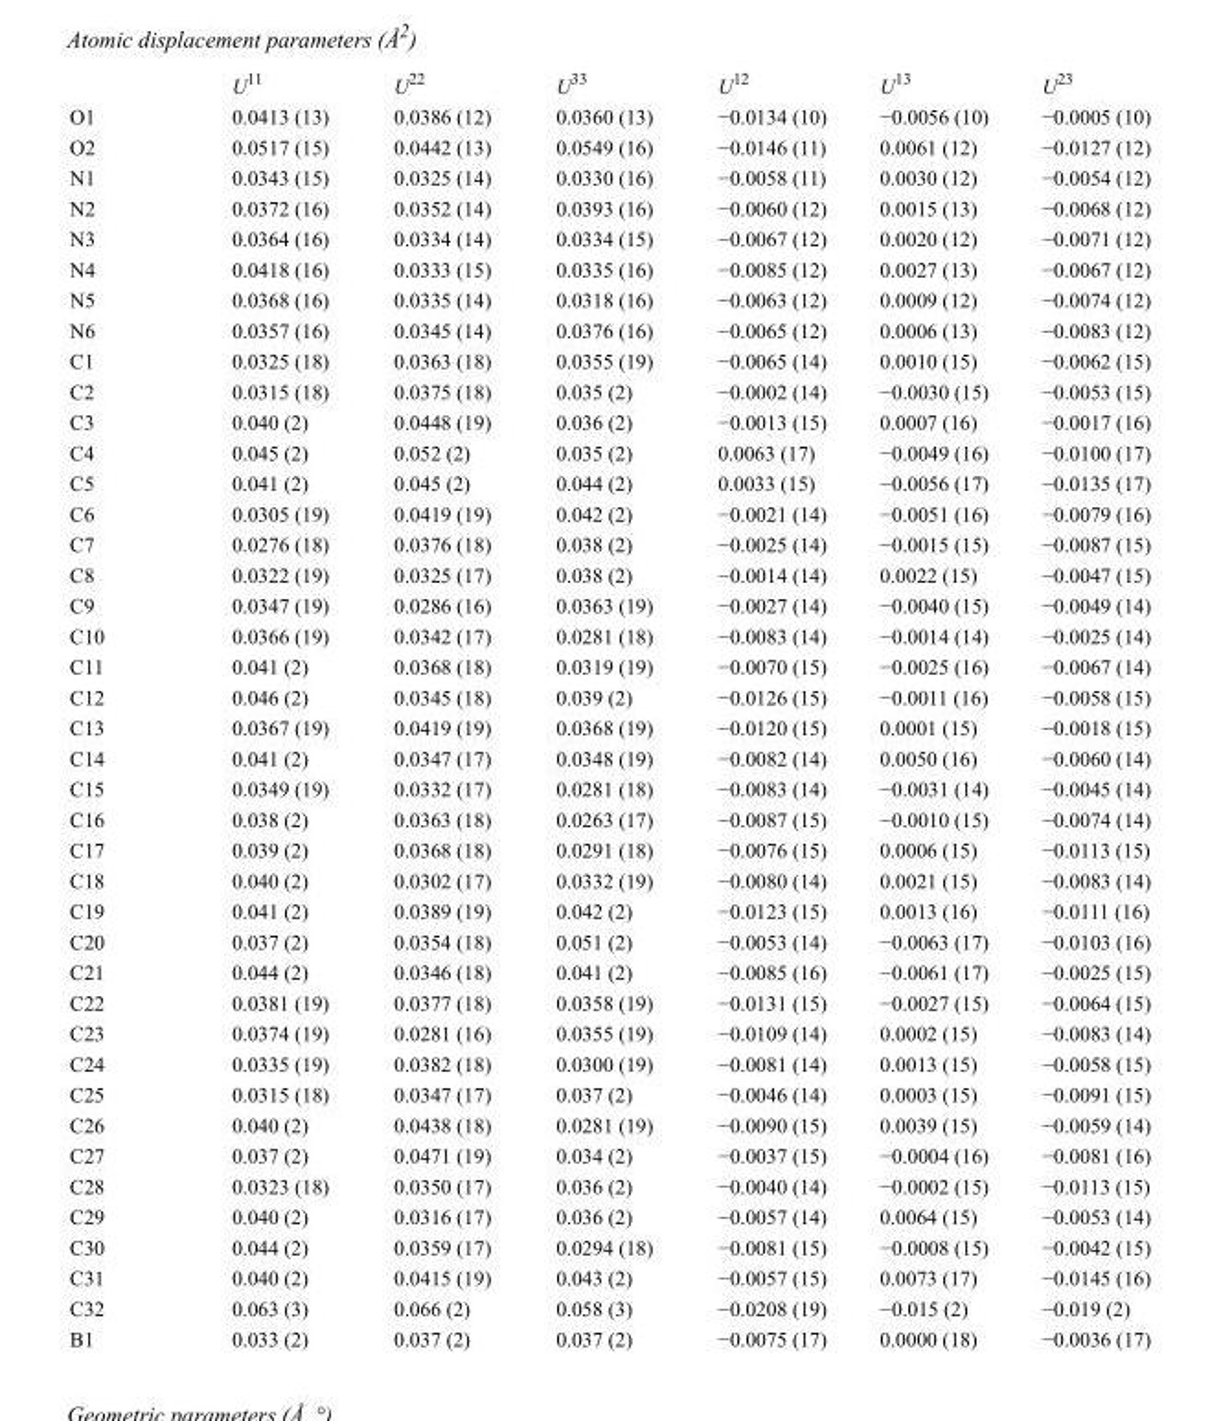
<table><thead><tr><td></td><td>U<sup>11</sup></td><td>U<sup>22</sup></td><td>U<sup>33</sup></td><td>U<sup>12</sup></td><td>U<sup>13</sup></td><td>U<sup>23</sup></td></tr></thead><tbody><tr><td>O1</td><td>0.0413 (13)</td><td>0.0386 (12)</td><td>0.0360 (13)</td><td>−0.0134 (10)</td><td>−0.0056 (10)</td><td>−0.0005 (10)</td></tr><tr><td>O2</td><td>0.0517 (15)</td><td>0.0442 (13)</td><td>0.0549 (16)</td><td>−0.0146 (11)</td><td>0.0061 (12)</td><td>−0.0127 (12)</td></tr><tr><td>N1</td><td>0.0343 (15)</td><td>0.0325 (14)</td><td>0.0330 (16)</td><td>−0.0058 (11)</td><td>0.0030 (12)</td><td>−0.0054 (12)</td></tr><tr><td>N2</td><td>0.0372 (16)</td><td>0.0352 (14)</td><td>0.0393 (16)</td><td>−0.0060 (12)</td><td>0.0015 (13)</td><td>−0.0068 (12)</td></tr><tr><td>N3</td><td>0.0364 (16)</td><td>0.0334 (14)</td><td>0.0334 (15)</td><td>−0.0067 (12)</td><td>0.0020 (12)</td><td>−0.0071 (12)</td></tr><tr><td>N4</td><td>0.0418 (16)</td><td>0.0333 (15)</td><td>0.0335 (16)</td><td>−0.0085 (12)</td><td>0.0027 (13)</td><td>−0.0067 (12)</td></tr><tr><td>N5</td><td>0.0368 (16)</td><td>0.0335 (14)</td><td>0.0318 (16)</td><td>−0.0063 (12)</td><td>0.0009 (12)</td><td>−0.0074 (12)</td></tr><tr><td>N6</td><td>0.0357 (16)</td><td>0.0345 (14)</td><td>0.0376 (16)</td><td>−0.0065 (12)</td><td>0.0006 (13)</td><td>−0.0083 (12)</td></tr><tr><td>C1</td><td>0.0325 (18)</td><td>0.0363 (18)</td><td>0.0355 (19)</td><td>−0.0065 (14)</td><td>0.0010 (15)</td><td>−0.0062 (15)</td></tr><tr><td>C2</td><td>0.0315 (18)</td><td>0.0375 (18)</td><td>0.035 (2)</td><td>−0.0002 (14)</td><td>−0.0030 (15)</td><td>−0.0053 (15)</td></tr><tr><td>C3</td><td>0.040 (2)</td><td>0.0448 (19)</td><td>0.036 (2)</td><td>−0.0013 (15)</td><td>0.0007 (16)</td><td>−0.0017 (16)</td></tr><tr><td>C4</td><td>0.045 (2)</td><td>0.052 (2)</td><td>0.035 (2)</td><td>0.0063 (17)</td><td>−0.0049 (16)</td><td>−0.0100 (17)</td></tr><tr><td>C5</td><td>0.041 (2)</td><td>0.045 (2)</td><td>0.044 (2)</td><td>0.0033 (15)</td><td>−0.0056 (17)</td><td>−0.0135 (17)</td></tr><tr><td>C6</td><td>0.0305 (19)</td><td>0.0419 (19)</td><td>0.042 (2)</td><td>−0.0021 (14)</td><td>−0.0051 (16)</td><td>−0.0079 (16)</td></tr><tr><td>C7</td><td>0.0276 (18)</td><td>0.0376 (18)</td><td>0.038 (2)</td><td>−0.0025 (14)</td><td>−0.0015 (15)</td><td>−0.0087 (15)</td></tr><tr><td>C8</td><td>0.0322 (19)</td><td>0.0325 (17)</td><td>0.038 (2)</td><td>−0.0014 (14)</td><td>0.0022 (15)</td><td>−0.0047 (15)</td></tr><tr><td>C9</td><td>0.0347 (19)</td><td>0.0286 (16)</td><td>0.0363 (19)</td><td>−0.0027 (14)</td><td>−0.0040 (15)</td><td>−0.0049 (14)</td></tr><tr><td>C10</td><td>0.0366 (19)</td><td>0.0342 (17)</td><td>0.0281 (18)</td><td>−0.0083 (14)</td><td>−0.0014 (14)</td><td>−0.0025 (14)</td></tr><tr><td>C11</td><td>0.041 (2)</td><td>0.0368 (18)</td><td>0.0319 (19)</td><td>−0.0070 (15)</td><td>−0.0025 (16)</td><td>−0.0067 (14)</td></tr><tr><td>C12</td><td>0.046 (2)</td><td>0.0345 (18)</td><td>0.039 (2)</td><td>−0.0126 (15)</td><td>−0.0011 (16)</td><td>−0.0058 (15)</td></tr><tr><td>C13</td><td>0.0367 (19)</td><td>0.0419 (19)</td><td>0.0368 (19)</td><td>−0.0120 (15)</td><td>0.0001 (15)</td><td>−0.0018 (15)</td></tr><tr><td>C14</td><td>0.041 (2)</td><td>0.0347 (17)</td><td>0.0348 (19)</td><td>−0.0082 (14)</td><td>0.0050 (16)</td><td>−0.0060 (14)</td></tr><tr><td>C15</td><td>0.0349 (19)</td><td>0.0332 (17)</td><td>0.0281 (18)</td><td>−0.0083 (14)</td><td>−0.0031 (14)</td><td>−0.0045 (14)</td></tr><tr><td>C16</td><td>0.038 (2)</td><td>0.0363 (18)</td><td>0.0263 (17)</td><td>−0.0087 (15)</td><td>−0.0010 (15)</td><td>−0.0074 (14)</td></tr><tr><td>C17</td><td>0.039 (2)</td><td>0.0368 (18)</td><td>0.0291 (18)</td><td>−0.0076 (15)</td><td>0.0006 (15)</td><td>−0.0113 (15)</td></tr><tr><td>C18</td><td>0.040 (2)</td><td>0.0302 (17)</td><td>0.0332 (19)</td><td>−0.0080 (14)</td><td>0.0021 (15)</td><td>−0.0083 (14)</td></tr><tr><td>C19</td><td>0.041 (2)</td><td>0.0389 (19)</td><td>0.042 (2)</td><td>−0.0123 (15)</td><td>0.0013 (16)</td><td>−0.0111 (16)</td></tr><tr><td>C20</td><td>0.037 (2)</td><td>0.0354 (18)</td><td>0.051 (2)</td><td>−0.0053 (14)</td><td>−0.0063 (17)</td><td>−0.0103 (16)</td></tr><tr><td>C21</td><td>0.044 (2)</td><td>0.0346 (18)</td><td>0.041 (2)</td><td>−0.0085 (16)</td><td>−0.0061 (17)</td><td>−0.0025 (15)</td></tr><tr><td>C22</td><td>0.0381 (19)</td><td>0.0377 (18)</td><td>0.0358 (19)</td><td>−0.0131 (15)</td><td>−0.0027 (15)</td><td>−0.0064 (15)</td></tr><tr><td>C23</td><td>0.0374 (19)</td><td>0.0281 (16)</td><td>0.0355 (19)</td><td>−0.0109 (14)</td><td>0.0002 (15)</td><td>−0.0083 (14)</td></tr><tr><td>C24</td><td>0.0335 (19)</td><td>0.0382 (18)</td><td>0.0300 (19)</td><td>−0.0081 (14)</td><td>0.0013 (15)</td><td>−0.0058 (15)</td></tr><tr><td>C25</td><td>0.0315 (18)</td><td>0.0347 (17)</td><td>0.037 (2)</td><td>−0.0046 (14)</td><td>0.0003 (15)</td><td>−0.0091 (15)</td></tr><tr><td>C26</td><td>0.040 (2)</td><td>0.0438 (18)</td><td>0.0281 (19)</td><td>−0.0090 (15)</td><td>0.0039 (15)</td><td>−0.0059 (14)</td></tr><tr><td>C27</td><td>0.037 (2)</td><td>0.0471 (19)</td><td>0.034 (2)</td><td>−0.0037 (15)</td><td>−0.0004 (16)</td><td>−0.0081 (16)</td></tr><tr><td>C28</td><td>0.0323 (18)</td><td>0.0350 (17)</td><td>0.036 (2)</td><td>−0.0040 (14)</td><td>−0.0002 (15)</td><td>−0.0113 (15)</td></tr><tr><td>C29</td><td>0.040 (2)</td><td>0.0316 (17)</td><td>0.036 (2)</td><td>−0.0057 (14)</td><td>0.0064 (15)</td><td>−0.0053 (14)</td></tr><tr><td>C30</td><td>0.044 (2)</td><td>0.0359 (17)</td><td>0.0294 (18)</td><td>−0.0081 (15)</td><td>−0.0008 (15)</td><td>−0.0042 (15)</td></tr><tr><td>C31</td><td>0.040 (2)</td><td>0.0415 (19)</td><td>0.043 (2)</td><td>−0.0057 (15)</td><td>0.0073 (17)</td><td>−0.0145 (16)</td></tr><tr><td>C32</td><td>0.063 (3)</td><td>0.066 (2)</td><td>0.058 (3)</td><td>−0.0208 (19)</td><td>−0.015 (2)</td><td>−0.019 (2)</td></tr><tr><td>B1</td><td>0.033 (2)</td><td>0.037 (2)</td><td>0.037 (2)</td><td>−0.0075 (17)</td><td>0.0000 (18)</td><td>−0.0036 (17)</td></tr></tbody></table>